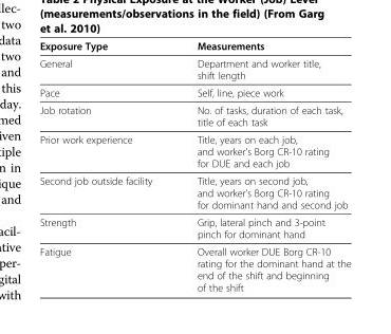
<table><thead><tr><td>Exposure Type</td><td>Measurements</td></tr></thead><tbody><tr><td>General</td><td>Department and worker title, shift length</td></tr><tr><td>Pace</td><td>Self, line, piece work</td></tr><tr><td>Job rotation</td><td>No. of tasks, duration of each task, title of each task</td></tr><tr><td>Prior work experience</td><td>Title, years on each job, and worker’s Borg CR-10 rating for DUE and each job</td></tr><tr><td>Second job outside facility</td><td>Title, years on second job, and worker’s Borg CR-10 rating for dominant hand and second job</td></tr><tr><td>Strength</td><td>Grip, lateral pinch and 3-point pinch for dominant hand</td></tr><tr><td>Fatigue</td><td>Overall worker DUE Borg CR-10 rating for the dominant hand at the end of the shift and beginning of the shift</td></tr></tbody></table>